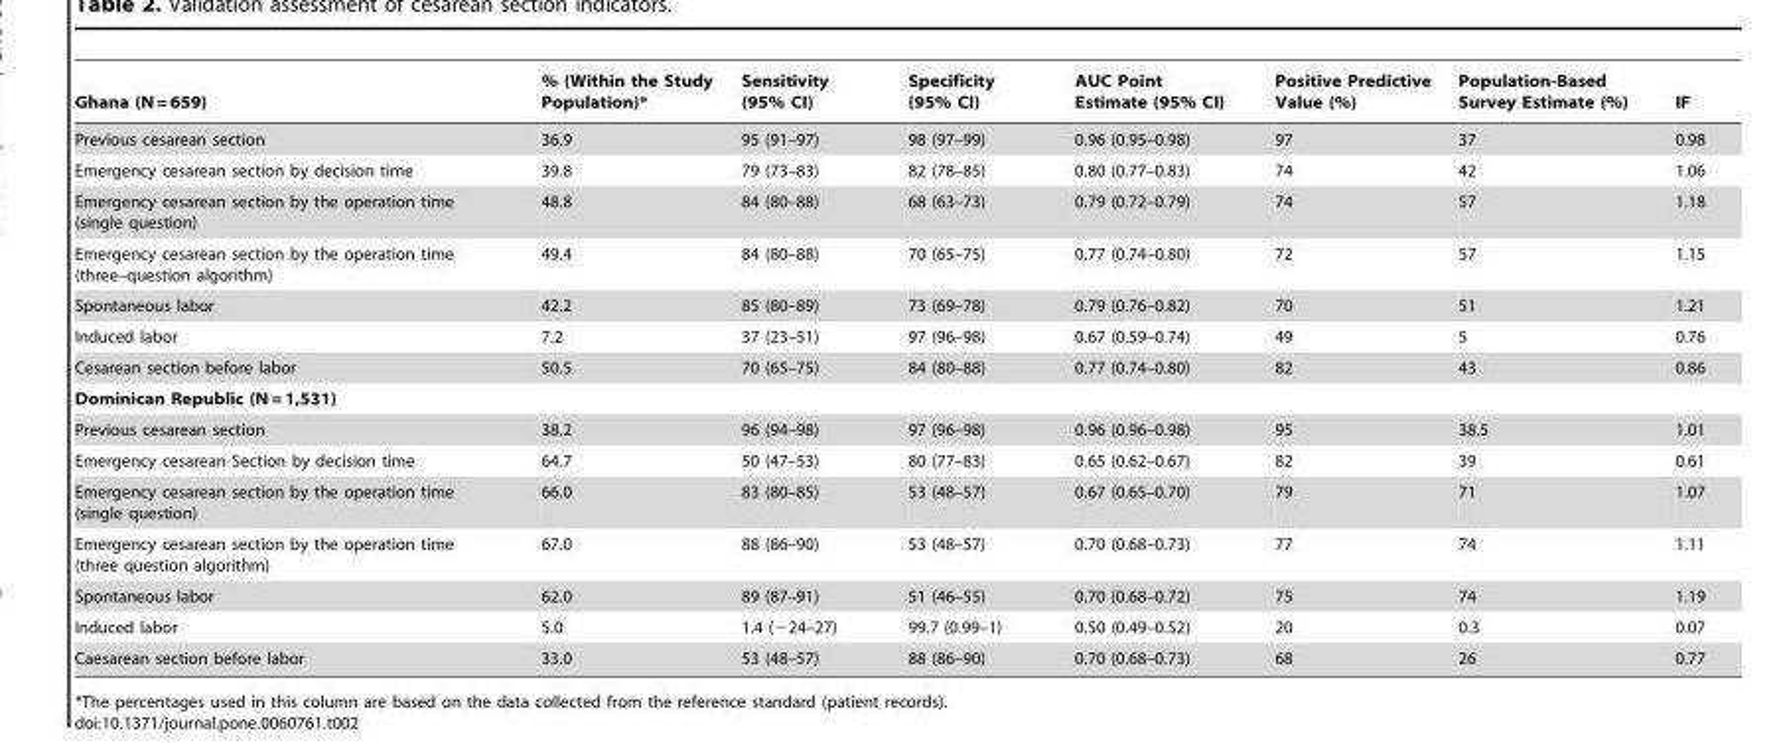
<table><thead><tr><td>Ghana (N = 659)</td><td>% (Within the Study Population)*</td><td>Sensitivity (95% CI)</td><td>Specificity (95% CI)</td><td>AUC Point Estimate (95% CI)</td><td>Positive Predictive Value (%)</td><td>Population-Based Survey Estimate (%)</td><td>IF</td></tr></thead><tbody><tr><td>Previous cesarean section</td><td>36.9</td><td>95 (91–97)</td><td>98 (97–99)</td><td>0.96 (0.95–0.98)</td><td>97</td><td>37</td><td>0.98</td></tr><tr><td>Emergency cesarean section by decision time</td><td>39.8</td><td>79 (73–83)</td><td>82 (78–85)</td><td>0.80 (0.77–0.83)</td><td>74</td><td>42</td><td>1.06</td></tr><tr><td>Emergency cesarean section by the operation time (single question)</td><td>48.8</td><td>84 (80–88)</td><td>68 (63–73)</td><td>0.79 (0.72–0.79)</td><td>74</td><td>57</td><td>1.18</td></tr><tr><td>Emergency cesarean section by the operation time (three–question algorithm)</td><td>49.4</td><td>84 (80–88)</td><td>70 (65–75)</td><td>0.77 (0.74–0.80)</td><td>72</td><td>57</td><td>1.15</td></tr><tr><td>Spontaneous labor</td><td>42.2</td><td>85 (80–89)</td><td>73 (69–78)</td><td>0.79 (0.76–0.82)</td><td>70</td><td>51</td><td>1.21</td></tr><tr><td>Induced labor</td><td>7.2</td><td>37 (23–51)</td><td>97 (96–98)</td><td>0.67 (0.59–0.74)</td><td>49</td><td>5</td><td>0.76</td></tr><tr><td>Cesarean section before labor</td><td>50.5</td><td>70 (65–75)</td><td>84 (80–88)</td><td>0.77 (0.74–0.80)</td><td>82</td><td>43</td><td>0.86</td></tr><tr><td colspan="8">Dominican Republic (N = 1,531)</td></tr><tr><td>Previous cesarean section</td><td>38.2</td><td>96 (94–98)</td><td>97 (96–98)</td><td>0.96 (0.96–0.98)</td><td>95</td><td>38.5</td><td>1.01</td></tr><tr><td>Emergency cesarean Section by decision time</td><td>64.7</td><td>50 (47–53)</td><td>80 (77–83)</td><td>0.65 (0.62–0.67)</td><td>82</td><td>39</td><td>0.61</td></tr><tr><td>Emergency cesarean section by the operation time (single question)</td><td>66.0</td><td>83 (80–85)</td><td>53 (48–57)</td><td>0.67 (0.65–0.70)</td><td>79</td><td>71</td><td>1.07</td></tr><tr><td>Emergency cesarean section by the operation time (three question algorithm)</td><td>67.0</td><td>88 (86–90)</td><td>53 (48–57)</td><td>0.70 (0.68–0.73)</td><td>77</td><td>74</td><td>1.11</td></tr><tr><td>Spontaneous labor</td><td>62.0</td><td>89 (87–91)</td><td>51 (46–55)</td><td>0.70 (0.68–0.72)</td><td>75</td><td>74</td><td>1.19</td></tr><tr><td>Induced labor</td><td>5.0</td><td>1.4 (−24–27)</td><td>99.7 (0.99–1)</td><td>0.50 (0.49–0.52)</td><td>20</td><td>0.3</td><td>0.07</td></tr><tr><td>Caesarean section before labor</td><td>33.0</td><td>53 (48–57)</td><td>88 (86–90)</td><td>0.70 (0.68–0.73)</td><td>68</td><td>26</td><td>0.77</td></tr></tbody></table>